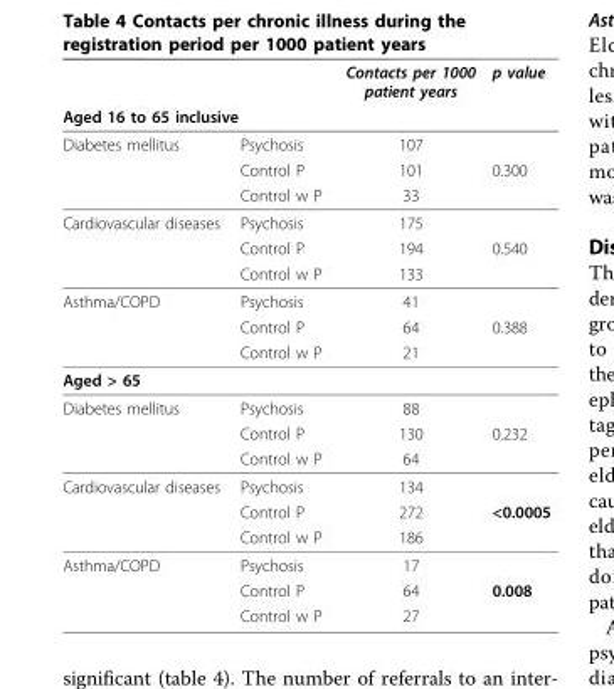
<table><thead><tr><td></td><td></td><td>Contacts per 1000 patient years</td><td>p value</td></tr><tr><td colspan="4">Aged 16 to 65 inclusive</td></tr></thead><tbody><tr><td rowspan="3">Diabetes mellitus</td><td>Psychosis</td><td>107</td><td></td></tr><tr><td>Control P</td><td>101</td><td>0.300</td></tr><tr><td>Control w P</td><td>33</td><td></td></tr><tr><td rowspan="3">Cardiovascular diseases</td><td>Psychosis</td><td>175</td><td></td></tr><tr><td>Control P</td><td>194</td><td>0.540</td></tr><tr><td>Control w P</td><td>133</td><td></td></tr><tr><td rowspan="3">Asthma/COPD</td><td>Psychosis</td><td>41</td><td></td></tr><tr><td>Control P</td><td>64</td><td>0.388</td></tr><tr><td>Control w P</td><td>21</td><td></td></tr><tr><td colspan="4">Aged &gt; 65</td></tr><tr><td rowspan="3">Diabetes mellitus</td><td>Psychosis</td><td>88</td><td></td></tr><tr><td>Control P</td><td>130</td><td>0.232</td></tr><tr><td>Control w P</td><td>64</td><td></td></tr><tr><td rowspan="3">Cardiovascular diseases</td><td>Psychosis</td><td>134</td><td></td></tr><tr><td>Control P</td><td>272</td><td>&lt;0.0005</td></tr><tr><td>Control w P</td><td>186</td><td></td></tr><tr><td rowspan="3">Asthma/COPD</td><td>Psychosis</td><td>17</td><td></td></tr><tr><td>Control P</td><td>64</td><td>0.008</td></tr><tr><td>Control w P</td><td>27</td><td></td></tr></tbody></table>